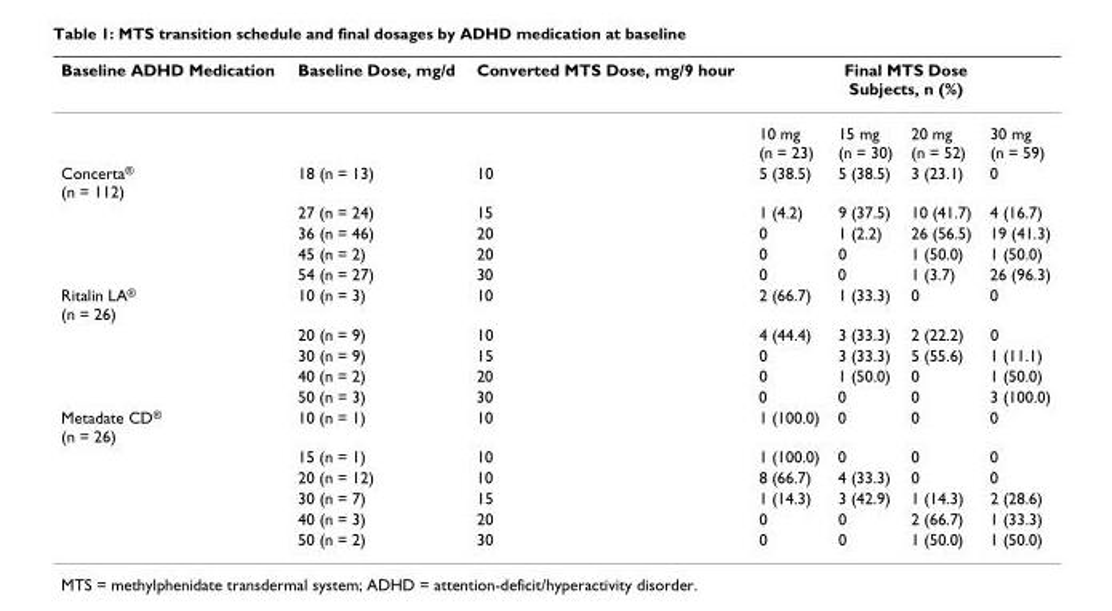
<table><thead><tr><td rowspan="2">Baseline ADHD Medication</td><td rowspan="2">Baseline Dose, mg/d</td><td rowspan="2">Converted MTS Dose, mg/9 hour</td><td colspan="4">Final MTS Dose Subjects, n (%)</td></tr><tr><td>10 mg (n = 23)</td><td>15 mg (n = 30)</td><td>20 mg (n = 52)</td><td>30 mg (n = 59)</td></tr></thead><tbody><tr><td rowspan="5">Concerta<sup>®</sup> (n = 112)</td><td>18 (n = 13)</td><td>10</td><td>5 (38.5)</td><td>5 (38.5)</td><td>3 (23.1)</td><td>0</td></tr><tr><td>27 (n = 24)</td><td>15</td><td>1 (4.2)</td><td>9 (37.5)</td><td>10 (41.7)</td><td>4 (16.7)</td></tr><tr><td>36 (n = 46)</td><td>20</td><td>0</td><td>1 (2.2)</td><td>26 (56.5)</td><td>19 (41.3)</td></tr><tr><td>45 (n = 2)</td><td>20</td><td>0</td><td>0</td><td>1 (50.0)</td><td>1 (50.0)</td></tr><tr><td>54 (n = 27)</td><td>30</td><td>0</td><td>0</td><td>1 (3.7)</td><td>26 (96.3)</td></tr><tr><td rowspan="5">Ritalin LA<sup>®</sup> (n = 26)</td><td>10 (n = 3)</td><td>10</td><td>2 (66.7)</td><td>1 (33.3)</td><td>0</td><td>0</td></tr><tr><td>20 (n = 9)</td><td>10</td><td>4 (44.4)</td><td>3 (33.3)</td><td>2 (22.2)</td><td>0</td></tr><tr><td>30 (n = 9)</td><td>15</td><td>0</td><td>3 (33.3)</td><td>5 (55.6)</td><td>1 (11.1)</td></tr><tr><td>40 (n = 2)</td><td>20</td><td>0</td><td>1 (50.0)</td><td>0</td><td>1 (50.0)</td></tr><tr><td>50 (n = 3)</td><td>30</td><td>0</td><td>0</td><td>0</td><td>3 (100.0)</td></tr><tr><td rowspan="6">Metadate CD<sup>®</sup> (n = 26)</td><td>10 (n = 1)</td><td>10</td><td>1 (100.0)</td><td>0</td><td>0</td><td>0</td></tr><tr><td>15 (n = 1)</td><td>10</td><td>1 (100.0)</td><td>0</td><td>0</td><td>0</td></tr><tr><td>20 (n = 12)</td><td>10</td><td>8 (66.7)</td><td>4 (33.3)</td><td>0</td><td>0</td></tr><tr><td>30 (n = 7)</td><td>15</td><td>1 (14.3)</td><td>3 (42.9)</td><td>1 (14.3)</td><td>2 (28.6)</td></tr><tr><td>40 (n = 3)</td><td>20</td><td>0</td><td>0</td><td>2 (66.7)</td><td>1 (33.3)</td></tr><tr><td>50 (n = 2)</td><td>30</td><td>0</td><td>0</td><td>1 (50.0)</td><td>1 (50.0)</td></tr></tbody></table>